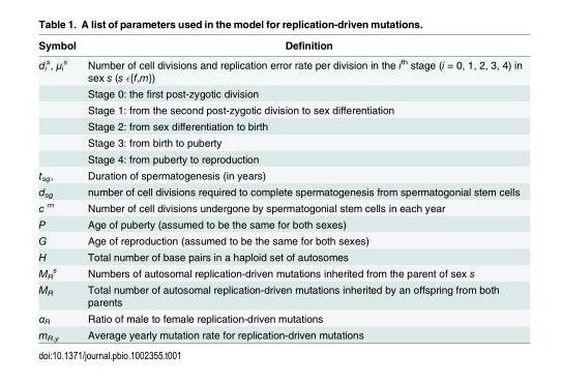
<table><thead><tr><td>Symbol</td><td>Definition</td></tr></thead><tbody><tr><td rowspan="6">d<sub>i</sub> <sup>s</sup>, μ<sub>i</sub> <sup>s</sup></td><td>Number of cell divisions and replication error rate per division in the i<sup>th</sup> stage (i = 0, 1, 2, 3, 4) in sex s (s ϵ{f,m})</td></tr><tr><td>Stage 0: the first post-zygotic division</td></tr><tr><td>Stage 1: from the second post-zygotic division to sex differentiation</td></tr><tr><td>Stage 2: from sex differentiation to birth</td></tr><tr><td>Stage 3: from birth to puberty</td></tr><tr><td>Stage 4: from puberty to reproduction</td></tr><tr><td>t<sub>sg</sub>,</td><td>Duration of spermatogenesis (in years)</td></tr><tr><td>d<sub>sg</sub></td><td>number of cell divisions required to complete spermatogenesis from spermatogonial stem cells</td></tr><tr><td>c <sup>m</sup></td><td>Number of cell divisions undergone by spermatogonial stem cells in each year</td></tr><tr><td>P</td><td>Age of puberty (assumed to be the same for both sexes)</td></tr><tr><td>G</td><td>Age of reproduction (assumed to be the same for both sexes)</td></tr><tr><td>H</td><td>Total number of base pairs in a haploid set of autosomes</td></tr><tr><td>M<sub>R</sub> <sup>s</sup></td><td>Numbers of autosomal replication-driven mutations inherited from the parent of sex s</td></tr><tr><td>M<sub>R</sub></td><td>Total number of autosomal replication-driven mutations inherited by an offspring from both parents</td></tr><tr><td>α<sub>R</sub></td><td>Ratio of male to female replication-driven mutations</td></tr><tr><td>m<sub>R,y</sub></td><td>Average yearly mutation rate for replication-driven mutations</td></tr></tbody></table>